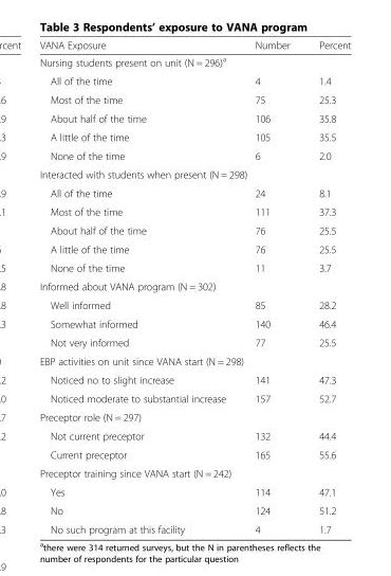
<table><thead><tr><td>VANA Exposure</td><td>Number</td><td>Percent</td></tr></thead><tbody><tr><td colspan="3">Nursing students present on unit (N = 296)<sup>a</sup></td></tr><tr><td>All of the time</td><td>4</td><td>1.4</td></tr><tr><td>Most of the time</td><td>75</td><td>25.3</td></tr><tr><td>About half of the time</td><td>106</td><td>35.8</td></tr><tr><td>A little of the time</td><td>105</td><td>35.5</td></tr><tr><td>None of the time</td><td>6</td><td>2.0</td></tr><tr><td colspan="3">Interacted with students when present (N = 298)</td></tr><tr><td>All of the time</td><td>24</td><td>8.1</td></tr><tr><td>Most of the time</td><td>111</td><td>37.3</td></tr><tr><td>About half of the time</td><td>76</td><td>25.5</td></tr><tr><td>A little of the time</td><td>76</td><td>25.5</td></tr><tr><td>None of the time</td><td>11</td><td>3.7</td></tr><tr><td colspan="3">Informed about VANA program (N = 302)</td></tr><tr><td>Well informed</td><td>85</td><td>28.2</td></tr><tr><td>Somewhat informed</td><td>140</td><td>46.4</td></tr><tr><td>Not very informed</td><td>77</td><td>25.5</td></tr><tr><td colspan="3">EBP activities on unit since VANA start (N = 298)</td></tr><tr><td>Noticed no to slight increase</td><td>141</td><td>47.3</td></tr><tr><td>Noticed moderate to substantial increase</td><td>157</td><td>52.7</td></tr><tr><td colspan="3">Preceptor role (N = 297)</td></tr><tr><td>Not current preceptor</td><td>132</td><td>44.4</td></tr><tr><td>Current preceptor</td><td>165</td><td>55.6</td></tr><tr><td colspan="3">Preceptor training since VANA start (N = 242)</td></tr><tr><td>Yes</td><td>114</td><td>47.1</td></tr><tr><td>No</td><td>124</td><td>51.2</td></tr><tr><td>No such program at this facility</td><td>4</td><td>1.7</td></tr></tbody></table>